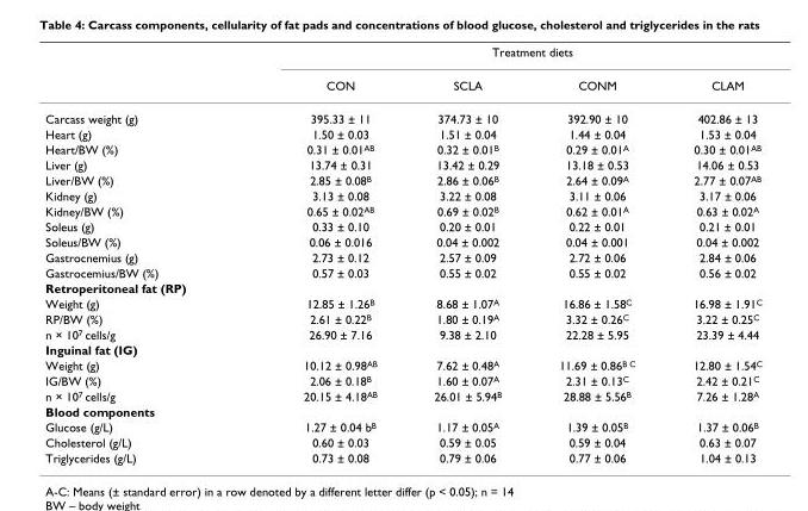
<table><thead><tr><td rowspan="2"></td><td colspan="4">Treatment diets</td></tr><tr><td>CON</td><td>SCLA</td><td>CONM</td><td>CLAM</td></tr></thead><tbody><tr><td>Carcass weight (g)</td><td>395.33 ± 11</td><td>374.73 ± 10</td><td>392.90 ± 10</td><td>402.86 ± 13</td></tr><tr><td>Heart (g)</td><td>1.50 ± 0.03</td><td>1.51 ± 0.04</td><td>1.44 ± 0.04</td><td>1.53 ± 0.04</td></tr><tr><td>Heart/BW (%)</td><td>0.31 ± 0.01<sup>AB</sup></td><td>0.32 ± 0.01<sup>B</sup></td><td>0.29 ± 0.01<sup>A</sup></td><td>0.30 ± 0.01<sup>AB</sup></td></tr><tr><td>Liver (g)</td><td>13.74 ± 0.31</td><td>13.42 ± 0.29</td><td>13.18 ± 0.53</td><td>14.06 ± 0.53</td></tr><tr><td>Liver/BW (%)</td><td>2.85 ± 0.08<sup>B</sup></td><td>2.86 ± 0.06<sup>B</sup></td><td>2.64 ± 0.09<sup>A</sup></td><td>2.77 ± 0.07<sup>AB</sup></td></tr><tr><td>Kidney (g)</td><td>3.13 ± 0.08</td><td>3.22 ± 0.08</td><td>3.11 ± 0.06</td><td>3.17 ± 0.06</td></tr><tr><td>Kidney/BW (%)</td><td>0.65 ± 0.02<sup>AB</sup></td><td>0.69 ± 0.02<sup>B</sup></td><td>0.62 ± 0.01<sup>A</sup></td><td>0.63 ± 0.02<sup>A</sup></td></tr><tr><td>Soleus (g)</td><td>0.33 ± 0.10</td><td>0.20 ± 0.01</td><td>0.22 ± 0.01</td><td>0.21 ± 0.01</td></tr><tr><td>Soleus/BW (%)</td><td>0.06 ± 0.016</td><td>0.04 ± 0.002</td><td>0.04 ± 0.001</td><td>0.04 ± 0.002</td></tr><tr><td>Gastrocnemius (g)</td><td>2.73 ± 0.12</td><td>2.57 ± 0.09</td><td>2.72 ± 0.06</td><td>2.84 ± 0.06</td></tr><tr><td>Gastrocemius/BW (%)</td><td>0.57 ± 0.03</td><td>0.55 ± 0.02</td><td>0.55 ± 0.02</td><td>0.56 ± 0.02</td></tr><tr><td colspan="5">Retroperitoneal fat (RP)</td></tr><tr><td>Weight (g)</td><td>12.85 ± 1.26<sup>B</sup></td><td>8.68 ± 1.07<sup>A</sup></td><td>16.86 ± 1.58<sup>C</sup></td><td>16.98 ± 1.91<sup>C</sup></td></tr><tr><td>RP/BW (%)</td><td>2.61 ± 0.22<sup>B</sup></td><td>1.80 ± 0.19<sup>A</sup></td><td>3.32 ± 0.26<sup>C</sup></td><td>3.22 ± 0.25<sup>C</sup></td></tr><tr><td>n × 10<sup>7</sup> cells/g</td><td>26.90 ± 7.16</td><td>9.38 ± 2.10</td><td>22.28 ± 5.95</td><td>23.39 ± 4.44</td></tr><tr><td colspan="5">Inguinal fat (IG)</td></tr><tr><td>Weight (g)</td><td>10.12 ± 0.98<sup>AB</sup></td><td>7.62 ± 0.48<sup>A</sup></td><td>11.69 ± 0.86<sup>B C</sup></td><td>12.80 ± 1.54<sup>C</sup></td></tr><tr><td>IG/BW (%)</td><td>2.06 ± 0.18<sup>B</sup></td><td>1.60 ± 0.07<sup>A</sup></td><td>2.31 ± 0.13<sup>C</sup></td><td>2.42 ± 0.21<sup>C</sup></td></tr><tr><td>n × 10<sup>7</sup> cells/g</td><td>20.15 ± 4.18<sup>AB</sup></td><td>26.01 ± 5.94<sup>B</sup></td><td>28.88 ± 5.56<sup>B</sup></td><td>7.26 ± 1.28<sup>A</sup></td></tr><tr><td colspan="5">Blood components</td></tr><tr><td>Glucose (g/L)</td><td>1.27 ± 0.04 b<sup>B</sup></td><td>1.17 ± 0.05<sup>A</sup></td><td>1.39 ± 0.05<sup>B</sup></td><td>1.37 ± 0.06<sup>B</sup></td></tr><tr><td>Cholesterol (g/L)</td><td>0.60 ± 0.03</td><td>0.59 ± 0.05</td><td>0.59 ± 0.04</td><td>0.63 ± 0.07</td></tr><tr><td>Triglycerides (g/L)</td><td>0.73 ± 0.08</td><td>0.79 ± 0.06</td><td>0.77 ± 0.06</td><td>1.04 ± 0.13</td></tr></tbody></table>